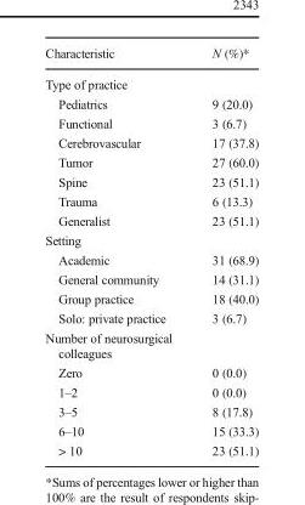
<table><thead><tr><td>Characteristic</td><td>N (%)*</td></tr></thead><tbody><tr><td colspan="2">Type of practice</td></tr><tr><td>Pediatrics</td><td>9 (20.0)</td></tr><tr><td>Functional</td><td>3 (6.7)</td></tr><tr><td>Cerebrovascular</td><td>17 (37.8)</td></tr><tr><td>Tumor</td><td>27 (60.0)</td></tr><tr><td>Spine</td><td>23 (51.1)</td></tr><tr><td>Trauma</td><td>6 (13.3)</td></tr><tr><td>Generalist</td><td>23 (51.1)</td></tr><tr><td colspan="2">Setting</td></tr><tr><td>Academic</td><td>31 (68.9)</td></tr><tr><td>General community</td><td>14 (31.1)</td></tr><tr><td>Group practice</td><td>18 (40.0)</td></tr><tr><td>Solo: private practice</td><td>3 (6.7)</td></tr><tr><td colspan="2">Number of neurosurgical colleagues</td></tr><tr><td>Zero</td><td>0 (0.0)</td></tr><tr><td>1–2</td><td>0 (0.0)</td></tr><tr><td>3–5</td><td>8 (17.8)</td></tr><tr><td>6–10</td><td>15 (33.3)</td></tr><tr><td>&gt; 10</td><td>23 (51.1)</td></tr></tbody></table>